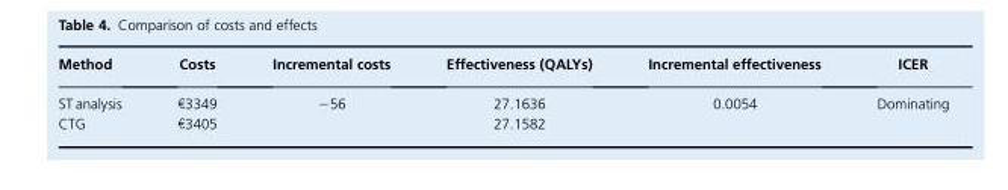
<table><thead><tr><td>Method</td><td>Costs</td><td>Incremental costs</td><td>Effectiveness (QALYs)</td><td>Incremental effectiveness</td><td>ICER</td></tr></thead><tbody><tr><td>ST analysis</td><td>€3349</td><td>−56</td><td>27.1636</td><td>0.0054</td><td>Dominating</td></tr><tr><td>CTG</td><td>€3405</td><td></td><td>27.1582</td><td></td><td></td></tr></tbody></table>